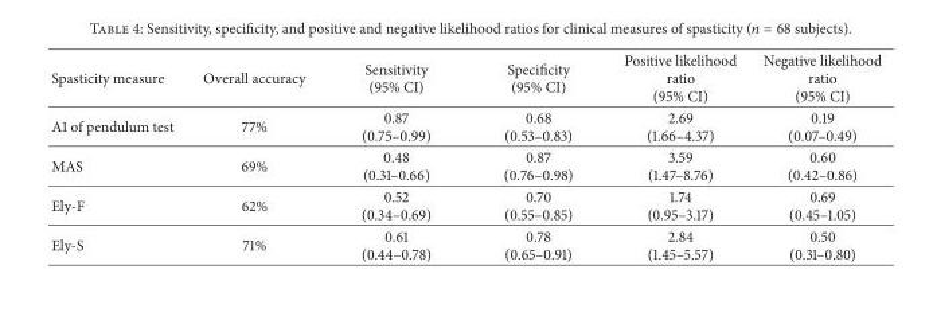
<table><thead><tr><td>Spasticity measure</td><td>Overall accuracy</td><td>Sensitivity (95% CI)</td><td>Specificity (95% CI)</td><td>Positive likelihood ratio (95% CI)</td><td>Negative likelihood ratio (95% CI)</td></tr></thead><tbody><tr><td>A1 of pendulum test</td><td>77%</td><td>0.87 (0.75–0.99)</td><td>0.68 (0.53–0.83)</td><td>2.69 (1.66–4.37)</td><td>0.19 (0.07–0.49)</td></tr><tr><td>MAS</td><td>69%</td><td>0.48 (0.31–0.66)</td><td>0.87 (0.76–0.98)</td><td>3.59 (1.47–8.76)</td><td>0.60 (0.42–0.86)</td></tr><tr><td>Ely-F</td><td>62%</td><td>0.52 (0.34–0.69)</td><td>0.70 (0.55–0.85)</td><td>1.74 (0.95–3.17)</td><td>0.69 (0.45–1.05)</td></tr><tr><td>Ely-S</td><td>71%</td><td>0.61 (0.44–0.78)</td><td>0.78 (0.65–0.91)</td><td>2.84 (1.45–5.57)</td><td>0.50 (0.31–0.80)</td></tr></tbody></table>